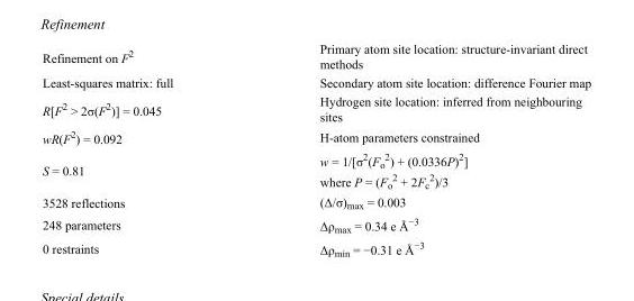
<table><tbody><tr><td>Refinement on F<sup>2</sup></td><td>Primary atom site location: structure-invariant direct methods</td></tr><tr><td>Least-squares matrix: full</td><td>Secondary atom site location: difference Fourier map</td></tr><tr><td>R[F<sup>2</sup> &gt; 2σ(F<sup>2</sup>)] = 0.045</td><td>Hydrogen site location: inferred from neighbouring sites</td></tr><tr><td>wR(F<sup>2</sup>) = 0.092</td><td>H-atom parameters constrained</td></tr><tr><td>S = 0.81</td><td>w = 1/[σ<sup>2</sup>(F<sub>o</sub> <sup>2</sup>) + (0.0336P)<sup>2</sup>] where P = (F<sub>o</sub> <sup>2</sup> + 2F<sub>c</sub> <sup>2</sup>)/3</td></tr><tr><td>3528 reflections</td><td>(Δ/σ)<sub>max</sub> = 0.003</td></tr><tr><td>248 parameters</td><td>Δρ<sub>max</sub> = 0.34 e Å<sup>−3</sup></td></tr><tr><td>0 restraints</td><td>Δρ<sub>min</sub> = −0.31 e Å<sup>−3</sup></td></tr></tbody></table>